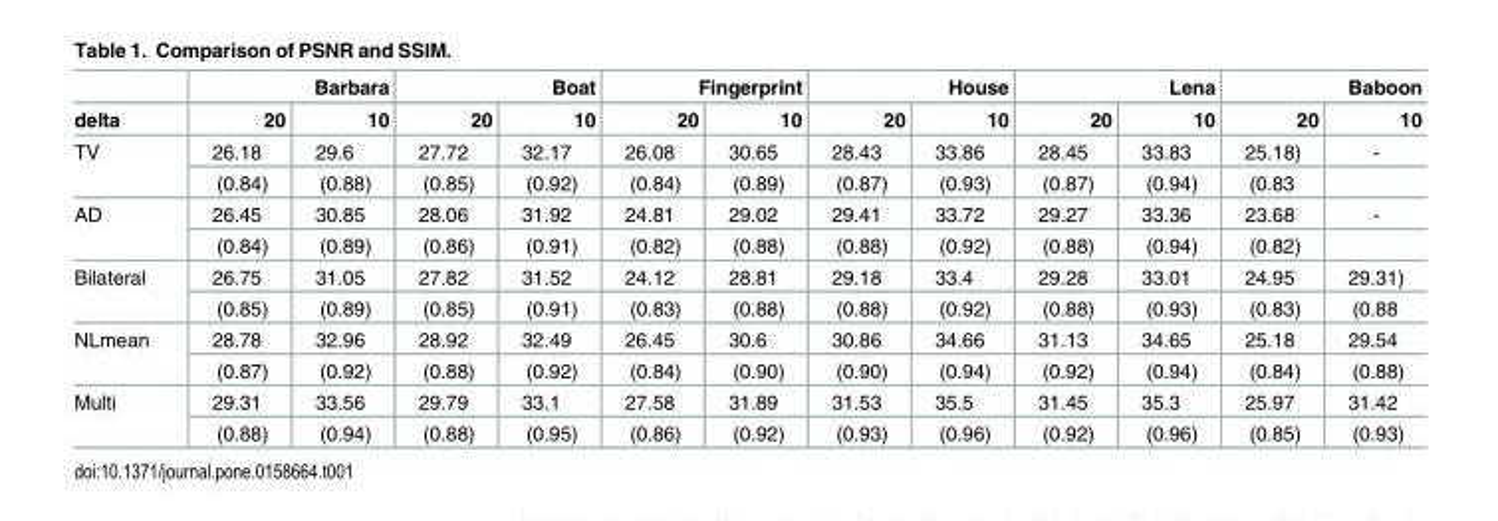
<table><thead><tr><td rowspan="2">delta</td><td colspan="2">Barbara</td><td colspan="2">Boat</td><td colspan="2">Fingerprint</td><td colspan="2">House</td><td colspan="2">Lena</td><td colspan="2">Baboon</td></tr><tr><td>20</td><td>10</td><td>20</td><td>10</td><td>20</td><td>10</td><td>20</td><td>10</td><td>20</td><td>10</td><td>20</td><td>10</td></tr></thead><tbody><tr><td rowspan="2">TV</td><td>26.18</td><td>29.6</td><td>27.72</td><td>32.17</td><td>26.08</td><td>30.65</td><td>28.43</td><td>33.86</td><td>28.45</td><td>33.83</td><td>25.18)</td><td>-</td></tr><tr><td>(0.84)</td><td>(0.88)</td><td>(0.85)</td><td>(0.92)</td><td>(0.84)</td><td>(0.89)</td><td>(0.87)</td><td>(0.93)</td><td>(0.87)</td><td>(0.94)</td><td>(0.83</td><td></td></tr><tr><td rowspan="2">AD</td><td>26.45</td><td>30.85</td><td>28.06</td><td>31.92</td><td>24.81</td><td>29.02</td><td>29.41</td><td>33.72</td><td>29.27</td><td>33.36</td><td>23.68</td><td>-</td></tr><tr><td>(0.84)</td><td>(0.89)</td><td>(0.86)</td><td>(0.91)</td><td>(0.82)</td><td>(0.88)</td><td>(0.88)</td><td>(0.92)</td><td>(0.88)</td><td>(0.94)</td><td>(0.82)</td><td></td></tr><tr><td rowspan="2">Bilateral</td><td>26.75</td><td>31.05</td><td>27.82</td><td>31.52</td><td>24.12</td><td>28.81</td><td>29.18</td><td>33.4</td><td>29.28</td><td>33.01</td><td>24.95</td><td>29.31)</td></tr><tr><td>(0.85)</td><td>(0.89)</td><td>(0.85)</td><td>(0.91)</td><td>(0.83)</td><td>(0.88)</td><td>(0.88)</td><td>(0.92)</td><td>(0.88)</td><td>(0.93)</td><td>(0.83)</td><td>(0.88</td></tr><tr><td rowspan="2">NLmean</td><td>28.78</td><td>32.96</td><td>28.92</td><td>32.49</td><td>26.45</td><td>30.6</td><td>30.86</td><td>34.66</td><td>31.13</td><td>34.65</td><td>25.18</td><td>29.54</td></tr><tr><td>(0.87)</td><td>(0.92)</td><td>(0.88)</td><td>(0.92)</td><td>(0.84)</td><td>(0.90)</td><td>(0.90)</td><td>(0.94)</td><td>(0.92)</td><td>(0.94)</td><td>(0.84)</td><td>(0.88)</td></tr><tr><td rowspan="2">Multi</td><td>29.31</td><td>33.56</td><td>29.79</td><td>33.1</td><td>27.58</td><td>31.89</td><td>31.53</td><td>35.5</td><td>31.45</td><td>35.3</td><td>25.97</td><td>31.42</td></tr><tr><td>(0.88)</td><td>(0.94)</td><td>(0.88)</td><td>(0.95)</td><td>(0.86)</td><td>(0.92)</td><td>(0.93)</td><td>(0.96)</td><td>(0.92)</td><td>(0.96)</td><td>(0.85)</td><td>(0.93)</td></tr></tbody></table>